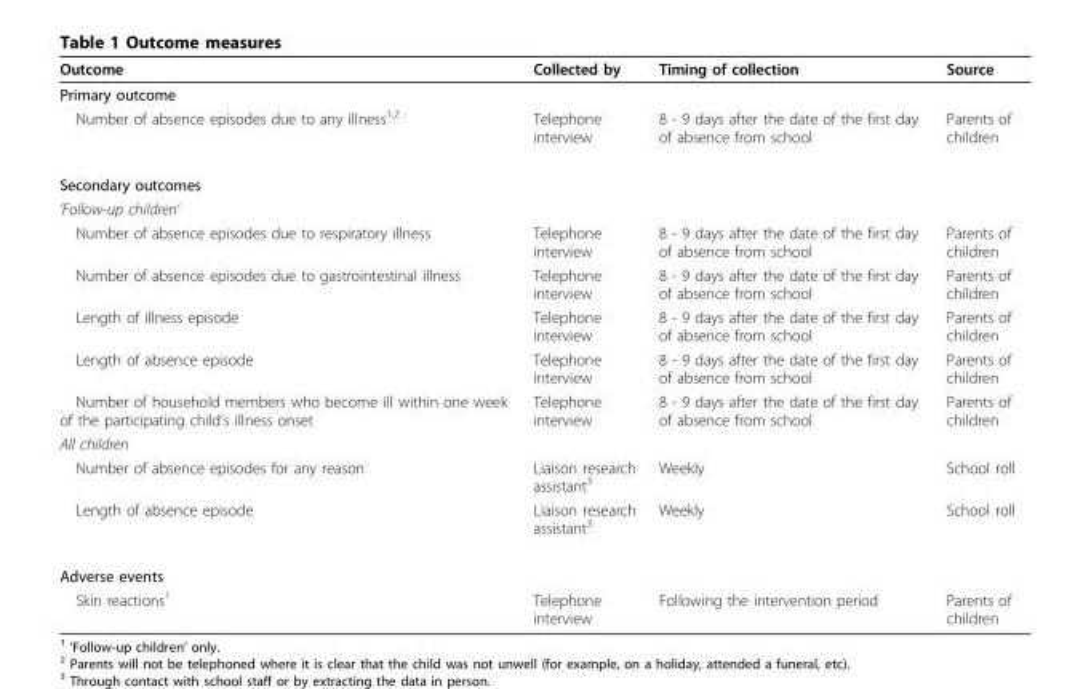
<table><thead><tr><td>Outcome</td><td>Collected by</td><td>Timing of collection</td><td>Source</td></tr></thead><tbody><tr><td colspan="4">Primary outcome</td></tr><tr><td>Number of absence episodes due to any illness<sup>1,2</sup></td><td>Telephone interview</td><td>8 - 9 days after the date of the first day of absence from school</td><td>Parents of children</td></tr><tr><td colspan="4">Secondary outcomes</td></tr><tr><td colspan="4">’Follow-up children’</td></tr><tr><td>Number of absence episodes due to respiratory illness</td><td>Telephone interview</td><td>8 - 9 days after the date of the first day of absence from school</td><td>Parents of children</td></tr><tr><td>Number of absence episodes due to gastrointestinal illness</td><td>Telephone interview</td><td>8 - 9 days after the date of the first day of absence from school</td><td>Parents of children</td></tr><tr><td>Length of illness episode</td><td>Telephone interview</td><td>8 - 9 days after the date of the first day of absence from school</td><td>Parents of children</td></tr><tr><td>Length of absence episode</td><td>Telephone interview</td><td>8 - 9 days after the date of the first day of absence from school</td><td>Parents of children</td></tr><tr><td>Number of household members who become ill within one week of the participating child’s illness onset</td><td>Telephone interview</td><td>8 - 9 days after the date of the first day of absence from school</td><td>Parents of children</td></tr><tr><td colspan="4">All children</td></tr><tr><td>Number of absence episodes for any reason</td><td>Liaison research assistant<sup>3</sup></td><td>Weekly</td><td>School roll</td></tr><tr><td>Length of absence episode</td><td>Liaison research assistant<sup>3</sup></td><td>Weekly</td><td>School roll</td></tr><tr><td colspan="4">Adverse events</td></tr><tr><td>Skin reactions<sup>1</sup></td><td>Telephone interview</td><td>Following the intervention period</td><td>Parents of children</td></tr></tbody></table>